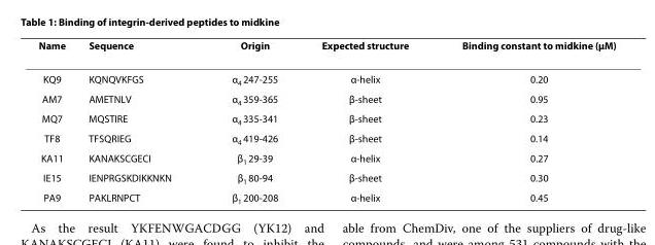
<table><thead><tr><td>Name</td><td>Sequence</td><td>Origin</td><td>Expected structure</td><td>Binding constant to midkine (μM)</td></tr></thead><tbody><tr><td>KQ9</td><td>KQNQVKFGS</td><td>α<sub>4</sub> 247-255</td><td>α-helix</td><td>0.20</td></tr><tr><td>AM7</td><td>AMETNLV</td><td>α<sub>4</sub> 359-365</td><td>β-sheet</td><td>0.95</td></tr><tr><td>MQ7</td><td>MQSTIRE</td><td>α<sub>4</sub> 335-341</td><td>β-sheet</td><td>0.23</td></tr><tr><td>TF8</td><td>TFSQRIEG</td><td>α<sub>4</sub> 419-426</td><td>β-sheet</td><td>0.14</td></tr><tr><td>KA11</td><td>KANAKSCGECI</td><td>β<sub>1</sub> 29-39</td><td>α-helix</td><td>0.27</td></tr><tr><td>IE15</td><td>IENPRGSKDIKKNKN</td><td>β<sub>1</sub> 80-94</td><td>β-sheet</td><td>0.30</td></tr><tr><td>PA9</td><td>PAKLRNPCT</td><td>β<sub>1</sub> 200-208</td><td>α-helix</td><td>0.45</td></tr></tbody></table>